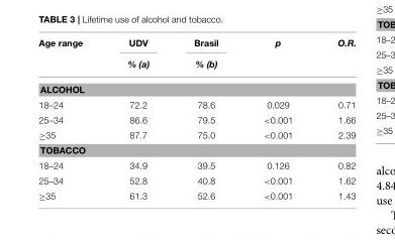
<table><thead><tr><td rowspan="2">Age range</td><td rowspan="2">UDV % (a)</td><td rowspan="2">Brasil % (b)</td><td rowspan="2">p</td><td rowspan="2">O.R.</td></tr><tr></tr></thead><tbody><tr><td colspan="5">ALCOHOL</td></tr><tr><td>18–24</td><td>72.2</td><td>78.6</td><td>0.029</td><td>0.71</td></tr><tr><td>25–34</td><td>86.6</td><td>79.5</td><td>&lt;0.001</td><td>1.66</td></tr><tr><td>≥35</td><td>87.7</td><td>75.0</td><td>&lt;0.001</td><td>2.39</td></tr><tr><td colspan="5">TOBACCO</td></tr><tr><td>18–24</td><td>34.9</td><td>39.5</td><td>0.126</td><td>0.82</td></tr><tr><td>25–34</td><td>52.8</td><td>40.8</td><td>&lt;0.001</td><td>1.62</td></tr><tr><td>≥35</td><td>61.3</td><td>52.6</td><td>&lt;0.001</td><td>1.43</td></tr></tbody></table>